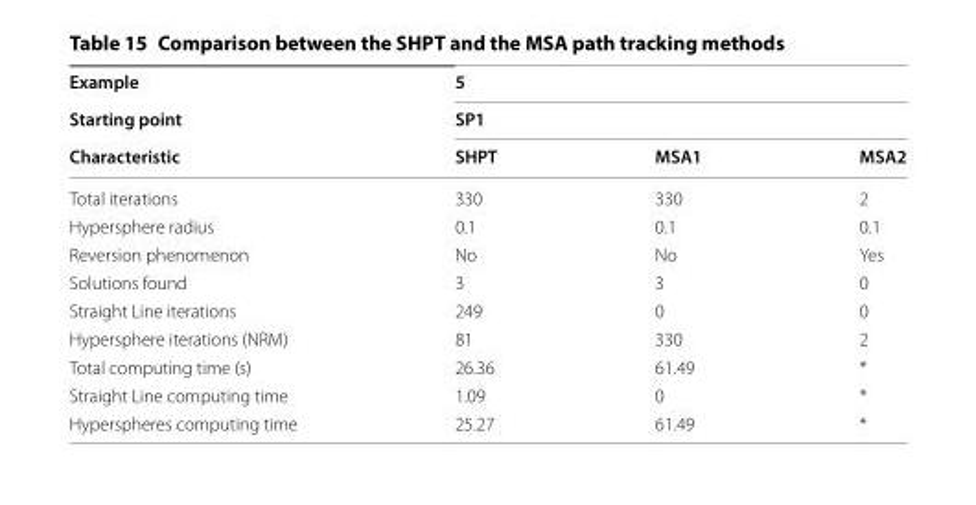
<table><thead><tr><td rowspan="3">Example Starting point Characteristic</td><td rowspan="2" colspan="3">5 SP1</td></tr><tr></tr><tr><td>SHPT</td><td>MSA1</td><td>MSA2</td></tr></thead><tbody><tr><td>Total iterations</td><td>330</td><td>330</td><td>2</td></tr><tr><td>Hypersphere radius</td><td>0.1</td><td>0.1</td><td>0.1</td></tr><tr><td>Reversion phenomenon</td><td>No</td><td>No</td><td>Yes</td></tr><tr><td>Solutions found</td><td>3</td><td>3</td><td>0</td></tr><tr><td>Straight Line iterations</td><td>249</td><td>0</td><td>0</td></tr><tr><td>Hypersphere iterations (NRM)</td><td>81</td><td>330</td><td>2</td></tr><tr><td>Total computing time (s)</td><td>26.36</td><td>61.49</td><td>*</td></tr><tr><td>Straight Line computing time</td><td>1.09</td><td>0</td><td>*</td></tr><tr><td>Hyperspheres computing time</td><td>25.27</td><td>61.49</td><td>*</td></tr></tbody></table>